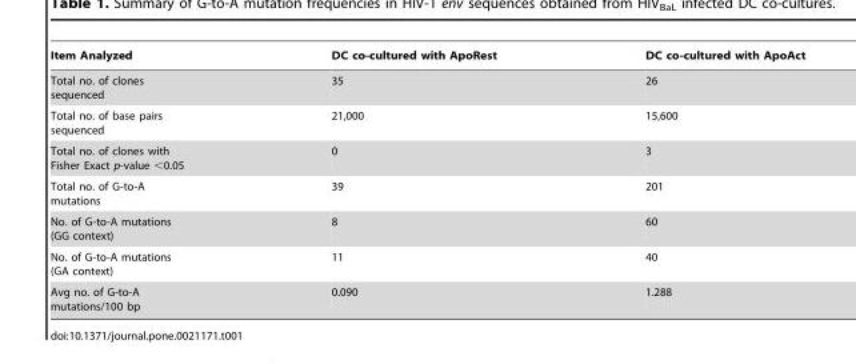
<table><thead><tr><td>Item Analyzed</td><td>DC co-cultured with ApoRest</td><td>DC co-cultured with ApoAct</td></tr></thead><tbody><tr><td>Total no. of clones sequenced</td><td>35</td><td>26</td></tr><tr><td>Total no. of base pairs sequenced</td><td>21,000</td><td>15,600</td></tr><tr><td>Total no. of clones with Fisher Exact p-value &lt;0.05</td><td>0</td><td>3</td></tr><tr><td>Total no. of G-to-A mutations</td><td>39</td><td>201</td></tr><tr><td>No. of G-to-A mutations (GG context)</td><td>8</td><td>60</td></tr><tr><td>No. of G-to-A mutations (GA context)</td><td>11</td><td>40</td></tr><tr><td>Avg no. of G-to-A mutations/100 bp</td><td>0.090</td><td>1.288</td></tr></tbody></table>